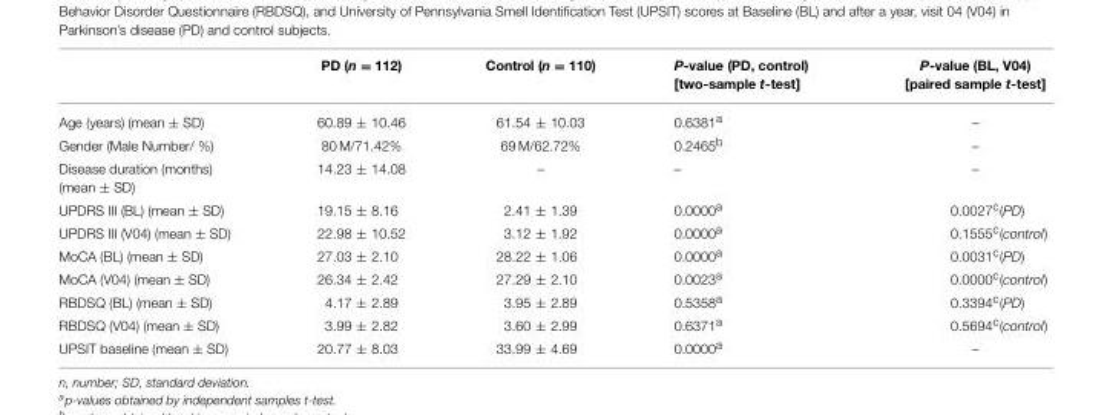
<table><thead><tr><td></td><td>PD (n = 112)</td><td>Control (n = 110)</td><td>P-value (PD, control) [two-sample t-test]</td><td>P-value (BL, V04) [paired sample t-test]</td></tr></thead><tbody><tr><td>Age (years) (mean ± SD)</td><td>60.89 ± 10.46</td><td>61.54 ± 10.03</td><td>0.6381<sup>a</sup></td><td>–</td></tr><tr><td>Gender (Male Number/ %)</td><td>80 M/71.42%</td><td>69 M/62.72%</td><td>0.2465<sup>b</sup></td><td>–</td></tr><tr><td>Disease duration (months) (mean ± SD)</td><td>14.23 ± 14.08</td><td>–</td><td>–</td><td>–</td></tr><tr><td>UPDRS III (BL) (mean ± SD)</td><td>19.15 ± 8.16</td><td>2.41 ± 1.39</td><td>0.0000<sup>a</sup></td><td>0.0027<sup>c</sup>(PD)</td></tr><tr><td>UPDRS III (V04) (mean ± SD)</td><td>22.98 ± 10.52</td><td>3.12 ± 1.92</td><td>0.0000<sup>a</sup></td><td>0.1555<sup>c</sup>(control)</td></tr><tr><td>MoCA (BL) (mean ± SD)</td><td>27.03 ± 2.10</td><td>28.22 ± 1.06</td><td>0.0000<sup>a</sup></td><td>0.0031<sup>c</sup>(PD)</td></tr><tr><td>MoCA (V04) (mean ± SD)</td><td>26.34 ± 2.42</td><td>27.29 ± 2.10</td><td>0.0023<sup>a</sup></td><td>0.0000<sup>c</sup>(control)</td></tr><tr><td>RBDSQ (BL) (mean ± SD)</td><td>4.17 ± 2.89</td><td>3.95 ± 2.89</td><td>0.5358<sup>a</sup></td><td>0.3394<sup>c</sup>(PD)</td></tr><tr><td>RBDSQ (V04) (mean ± SD)</td><td>3.99 ± 2.82</td><td>3.60 ± 2.99</td><td>0.6371<sup>a</sup></td><td>0.5694<sup>c</sup>(control)</td></tr><tr><td>UPSIT baseline (mean ± SD)</td><td>20.77 ± 8.03</td><td>33.99 ± 4.69</td><td>0.0000<sup>a</sup></td><td>–</td></tr></tbody></table>